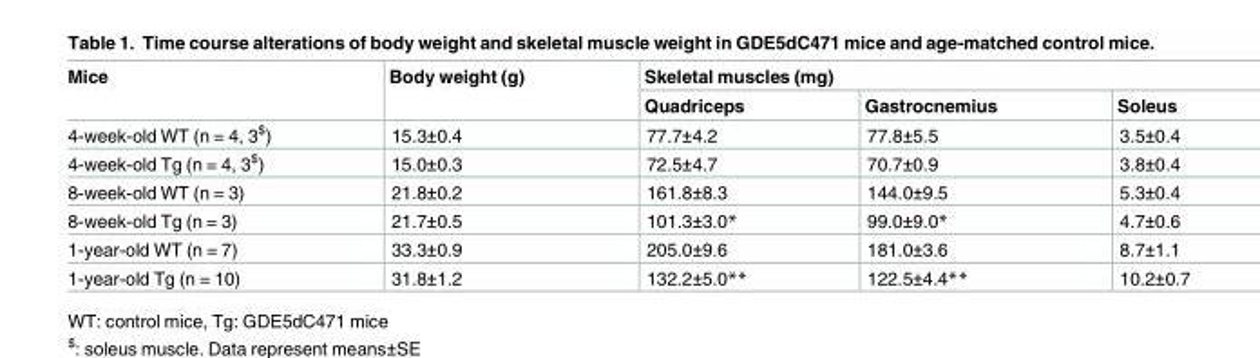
<table><thead><tr><td rowspan="2">Mice</td><td rowspan="2">Body weight (g)</td><td colspan="3">Skeletal muscles (mg)</td></tr><tr><td>Quadriceps</td><td>Gastrocnemius</td><td>Soleus</td></tr></thead><tbody><tr><td>4-week-old WT (n = 4, 3<sup>$</sup>)</td><td>15.3±0.4</td><td>77.7±4.2</td><td>77.8±5.5</td><td>3.5±0.4</td></tr><tr><td>4-week-old Tg (n = 4, 3<sup>$</sup>)</td><td>15.0±0.3</td><td>72.5±4.7</td><td>70.7±0.9</td><td>3.8±0.4</td></tr><tr><td>8-week-old WT (n = 3)</td><td>21.8±0.2</td><td>161.8±8.3</td><td>144.0±9.5</td><td>5.3±0.4</td></tr><tr><td>8-week-old Tg (n = 3)</td><td>21.7±0.5</td><td>101.3±3.0*</td><td>99.0±9.0*</td><td>4.7±0.6</td></tr><tr><td>1-year-old WT (n = 7)</td><td>33.3±0.9</td><td>205.0±9.6</td><td>181.0±3.6</td><td>8.7±1.1</td></tr><tr><td>1-year-old Tg (n = 10)</td><td>31.8±1.2</td><td>132.2±5.0**</td><td>122.5±4.4**</td><td>10.2±0.7</td></tr></tbody></table>